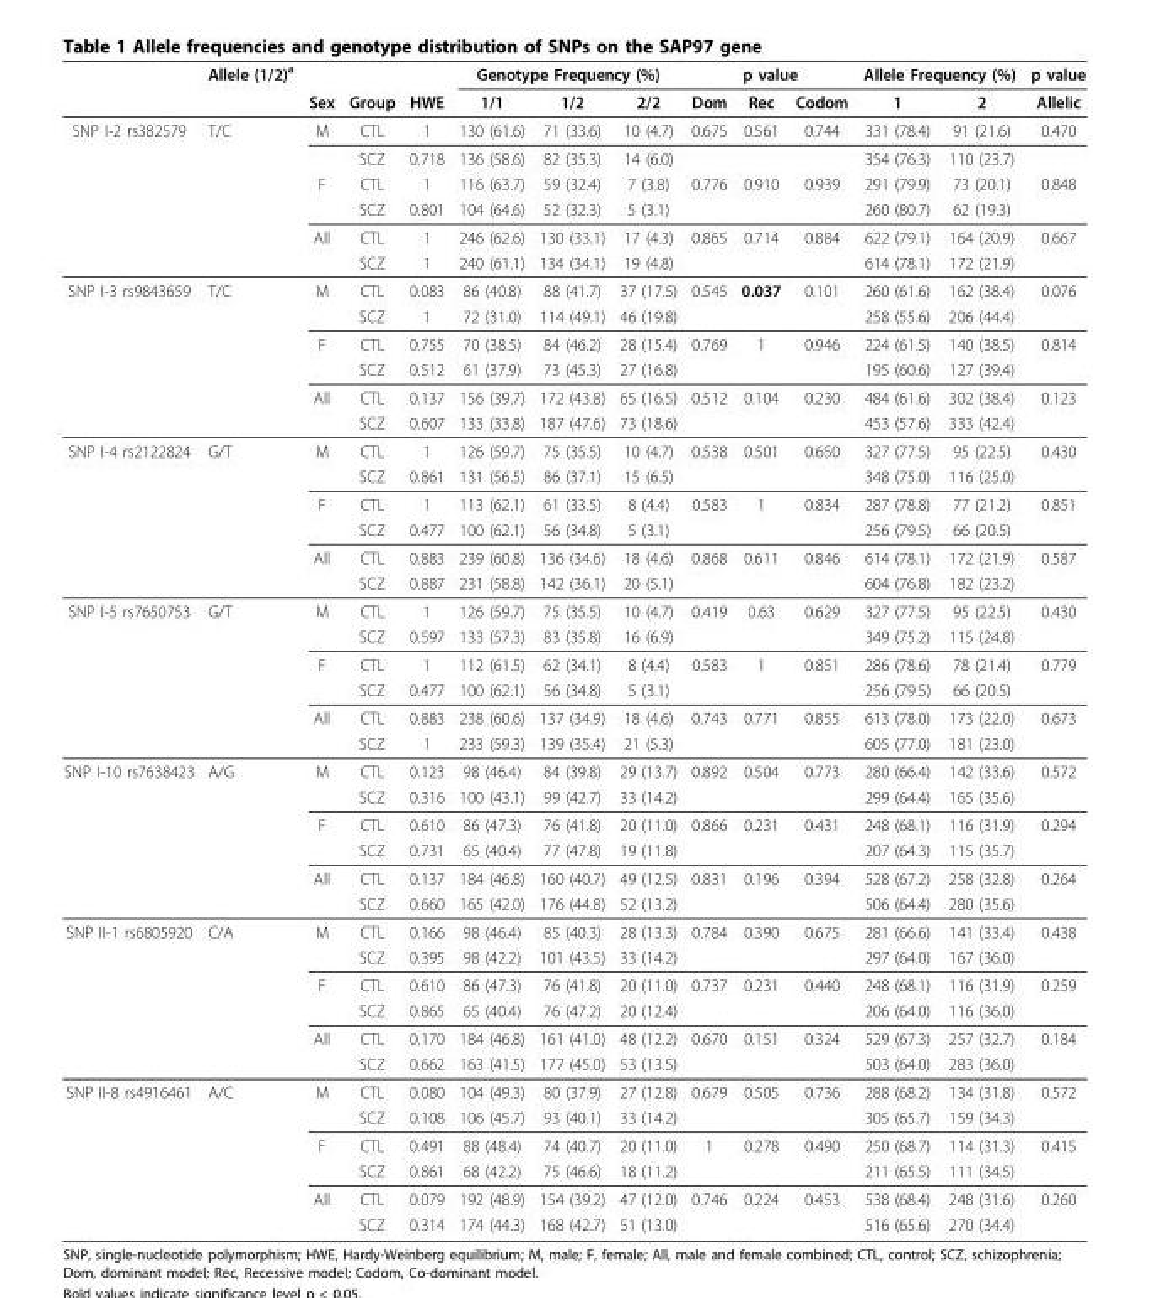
<table><thead><tr><td rowspan="2"></td><td rowspan="2">Allele (1/2)<sup>a</sup></td><td rowspan="2">Sex</td><td rowspan="2">Group</td><td rowspan="2">HWE</td><td colspan="3">Genotype Frequency (%)</td><td colspan="3">p value</td><td colspan="2">Allele Frequency (%)</td><td rowspan="2">p value Allelic</td></tr><tr><td>1/1</td><td>1/2</td><td>2/2</td><td>Dom</td><td>Rec</td><td>Codom</td><td>1</td><td>2</td></tr></thead><tbody><tr><td rowspan="6">SNP I-2 rs382579</td><td>T/C</td><td>M</td><td>CTL</td><td>1</td><td>130 (61.6)</td><td>71 (33.6)</td><td>10 (4.7)</td><td>0.675</td><td>0.561</td><td>0.744</td><td>331 (78.4)</td><td>91 (21.6)</td><td>0.470</td></tr><tr><td></td><td></td><td>SCZ</td><td>0.718</td><td>136 (58.6)</td><td>82 (35.3)</td><td>14 (6.0)</td><td></td><td></td><td></td><td>354 (76.3)</td><td>110 (23.7)</td><td></td></tr><tr><td></td><td>F</td><td>CTL</td><td>1</td><td>116 (63.7)</td><td>59 (32.4)</td><td>7 (3.8)</td><td>0.776</td><td>0.910</td><td>0.939</td><td>291 (79.9)</td><td>73 (20.1)</td><td>0.848</td></tr><tr><td></td><td></td><td>SCZ</td><td>0.801</td><td>104 (64.6)</td><td>52 (32.3)</td><td>5 (3.1)</td><td></td><td></td><td></td><td>260 (80.7)</td><td>62 (19.3)</td><td></td></tr><tr><td></td><td>All</td><td>CTL</td><td>1</td><td>246 (62.6)</td><td>130 (33.1)</td><td>17 (4.3)</td><td>0.865</td><td>0.714</td><td>0.884</td><td>622 (79.1)</td><td>164 (20.9)</td><td>0.667</td></tr><tr><td></td><td></td><td>SCZ</td><td>1</td><td>240 (61.1)</td><td>134 (34.1)</td><td>19 (4.8)</td><td></td><td></td><td></td><td>614 (78.1)</td><td>172 (21.9)</td><td></td></tr><tr><td rowspan="6">SNP I-3 rs9843659</td><td>T/C</td><td>M</td><td>CTL</td><td>0.083</td><td>86 (40.8)</td><td>88 (41.7)</td><td>37 (17.5)</td><td>0.545</td><td>0.037</td><td>0.101</td><td>260 (61.6)</td><td>162 (38.4)</td><td>0.076</td></tr><tr><td></td><td></td><td>SCZ</td><td>1</td><td>72 (31.0)</td><td>114 (49.1)</td><td>46 (19.8)</td><td></td><td></td><td></td><td>258 (55.6)</td><td>206 (44.4)</td><td></td></tr><tr><td></td><td>F</td><td>CTL</td><td>0.755</td><td>70 (38.5)</td><td>84 (46.2)</td><td>28 (15.4)</td><td>0.769</td><td>1</td><td>0.946</td><td>224 (61.5)</td><td>140 (38.5)</td><td>0.814</td></tr><tr><td></td><td></td><td>SCZ</td><td>0.512</td><td>61 (37.9)</td><td>73 (45.3)</td><td>27 (16.8)</td><td></td><td></td><td></td><td>195 (60.6)</td><td>127 (39.4)</td><td></td></tr><tr><td></td><td>All</td><td>CTL</td><td>0.137</td><td>156 (39.7)</td><td>172 (43.8)</td><td>65 (16.5)</td><td>0.512</td><td>0.104</td><td>0.230</td><td>484 (61.6)</td><td>302 (38.4)</td><td>0.123</td></tr><tr><td></td><td></td><td>SCZ</td><td>0.607</td><td>133 (33.8)</td><td>187 (47.6)</td><td>73 (18.6)</td><td></td><td></td><td></td><td>453 (57.6)</td><td>333 (42.4)</td><td></td></tr><tr><td rowspan="6">SNP I-4 rs2122824</td><td>G/T</td><td>M</td><td>CTL</td><td>1</td><td>126 (59.7)</td><td>75 (35.5)</td><td>10 (4.7)</td><td>0.538</td><td>0.501</td><td>0.650</td><td>327 (77.5)</td><td>95 (22.5)</td><td>0.430</td></tr><tr><td></td><td></td><td>SCZ</td><td>0.861</td><td>131 (56.5)</td><td>86 (37.1)</td><td>15 (6.5)</td><td></td><td></td><td></td><td>348 (75.0)</td><td>116 (25.0)</td><td></td></tr><tr><td></td><td>F</td><td>CTL</td><td>1</td><td>113 (62.1)</td><td>61 (33.5)</td><td>8 (4.4)</td><td>0.583</td><td>1</td><td>0.834</td><td>287 (78.8)</td><td>77 (21.2)</td><td>0.851</td></tr><tr><td></td><td></td><td>SCZ</td><td>0.477</td><td>100 (62.1)</td><td>56 (34.8)</td><td>5 (3.1)</td><td></td><td></td><td></td><td>256 (79.5)</td><td>66 (20.5)</td><td></td></tr><tr><td></td><td>All</td><td>CTL</td><td>0.883</td><td>239 (60.8)</td><td>136 (34.6)</td><td>18 (4.6)</td><td>0.868</td><td>0.611</td><td>0.846</td><td>614 (78.1)</td><td>172 (21.9)</td><td>0.587</td></tr><tr><td></td><td></td><td>SCZ</td><td>0.887</td><td>231 (58.8)</td><td>142 (36.1)</td><td>20 (5.1)</td><td></td><td></td><td></td><td>604 (76.8)</td><td>182 (23.2)</td><td></td></tr><tr><td rowspan="6">SNP I-5 rs7650753</td><td>G/T</td><td>M</td><td>CTL</td><td>1</td><td>126 (59.7)</td><td>75 (35.5)</td><td>10 (4.7)</td><td>0.419</td><td>0.63</td><td>0.629</td><td>327 (77.5)</td><td>95 (22.5)</td><td>0.430</td></tr><tr><td></td><td></td><td>SCZ</td><td>0.597</td><td>133 (57.3)</td><td>83 (35.8)</td><td>16 (6.9)</td><td></td><td></td><td></td><td>349 (75.2)</td><td>115 (24.8)</td><td></td></tr><tr><td></td><td>F</td><td>CTL</td><td>1</td><td>112 (61.5)</td><td>62 (34.1)</td><td>8 (4.4)</td><td>0.583</td><td>1</td><td>0.851</td><td>286 (78.6)</td><td>78 (21.4)</td><td>0.779</td></tr><tr><td></td><td></td><td>SCZ</td><td>0.477</td><td>100 (62.1)</td><td>56 (34.8)</td><td>5 (3.1)</td><td></td><td></td><td></td><td>256 (79.5)</td><td>66 (20.5)</td><td></td></tr><tr><td></td><td>All</td><td>CTL</td><td>0.883</td><td>238 (60.6)</td><td>137 (34.9)</td><td>18 (4.6)</td><td>0.743</td><td>0.771</td><td>0.855</td><td>613 (78.0)</td><td>173 (22.0)</td><td>0.673</td></tr><tr><td></td><td></td><td>SCZ</td><td>1</td><td>233 (59.3)</td><td>139 (35.4)</td><td>21 (5.3)</td><td></td><td></td><td></td><td>605 (77.0)</td><td>181 (23.0)</td><td></td></tr><tr><td rowspan="6">SNP I-10 rs7638423</td><td>A/G</td><td>M</td><td>CTL</td><td>0.123</td><td>98 (46.4)</td><td>84 (39.8)</td><td>29 (13.7)</td><td>0.892</td><td>0.504</td><td>0.773</td><td>280 (66.4)</td><td>142 (33.6)</td><td>0.572</td></tr><tr><td></td><td></td><td>SCZ</td><td>0.316</td><td>100 (43.1)</td><td>99 (42.7)</td><td>33 (14.2)</td><td></td><td></td><td></td><td>299 (64.4)</td><td>165 (35.6)</td><td></td></tr><tr><td></td><td>F</td><td>CTL</td><td>0.610</td><td>86 (47.3)</td><td>76 (41.8)</td><td>20 (11.0)</td><td>0.866</td><td>0.231</td><td>0.431</td><td>248 (68.1)</td><td>116 (31.9)</td><td>0.294</td></tr><tr><td></td><td></td><td>SCZ</td><td>0.731</td><td>65 (40.4)</td><td>77 (47.8)</td><td>19 (11.8)</td><td></td><td></td><td></td><td>207 (64.3)</td><td>115 (35.7)</td><td></td></tr><tr><td></td><td>All</td><td>CTL</td><td>0.137</td><td>184 (46.8)</td><td>160 (40.7)</td><td>49 (12.5)</td><td>0.831</td><td>0.196</td><td>0.394</td><td>528 (67.2)</td><td>258 (32.8)</td><td>0.264</td></tr><tr><td></td><td></td><td>SCZ</td><td>0.660</td><td>165 (42.0)</td><td>176 (44.8)</td><td>52 (13.2)</td><td></td><td></td><td></td><td>506 (64.4)</td><td>280 (35.6)</td><td></td></tr><tr><td rowspan="6">SNP II-1 rs6805920</td><td>C/A</td><td>M</td><td>CTL</td><td>0.166</td><td>98 (46.4)</td><td>85 (40.3)</td><td>28 (13.3)</td><td>0.784</td><td>0.390</td><td>0.675</td><td>281 (66.6)</td><td>141 (33.4)</td><td>0.438</td></tr><tr><td></td><td></td><td>SCZ</td><td>0.395</td><td>98 (42.2)</td><td>101 (43.5)</td><td>33 (14.2)</td><td></td><td></td><td></td><td>297 (64.0)</td><td>167 (36.0)</td><td></td></tr><tr><td></td><td>F</td><td>CTL</td><td>0.610</td><td>86 (47.3)</td><td>76 (41.8)</td><td>20 (11.0)</td><td>0.737</td><td>0.231</td><td>0.440</td><td>248 (68.1)</td><td>116 (31.9)</td><td>0.259</td></tr><tr><td></td><td></td><td>SCZ</td><td>0.865</td><td>65 (40.4)</td><td>76 (47.2)</td><td>20 (12.4)</td><td></td><td></td><td></td><td>206 (64.0)</td><td>116 (36.0)</td><td></td></tr><tr><td></td><td>All</td><td>CTL</td><td>0.170</td><td>184 (46.8)</td><td>161 (41.0)</td><td>48 (12.2)</td><td>0.670</td><td>0.151</td><td>0.324</td><td>529 (67.3)</td><td>257 (32.7)</td><td>0.184</td></tr><tr><td></td><td></td><td>SCZ</td><td>0.662</td><td>163 (41.5)</td><td>177 (45.0)</td><td>53 (13.5)</td><td></td><td></td><td></td><td>503 (64.0)</td><td>283 (36.0)</td><td></td></tr><tr><td rowspan="6">SNP II-8 rs4916461</td><td>A/C</td><td>M</td><td>CTL</td><td>0.080</td><td>104 (49.3)</td><td>80 (37.9)</td><td>27 (12.8)</td><td>0.679</td><td>0.505</td><td>0.736</td><td>288 (68.2)</td><td>134 (31.8)</td><td>0.572</td></tr><tr><td></td><td></td><td>SCZ</td><td>0.108</td><td>106 (45.7)</td><td>93 (40.1)</td><td>33 (14.2)</td><td></td><td></td><td></td><td>305 (65.7)</td><td>159 (34.3)</td><td></td></tr><tr><td></td><td>F</td><td>CTL</td><td>0.491</td><td>88 (48.4)</td><td>74 (40.7)</td><td>20 (11.0)</td><td>1</td><td>0.278</td><td>0.490</td><td>250 (68.7)</td><td>114 (31.3)</td><td>0.415</td></tr><tr><td></td><td></td><td>SCZ</td><td>0.861</td><td>68 (42.2)</td><td>75 (46.6)</td><td>18 (11.2)</td><td></td><td></td><td></td><td>211 (65.5)</td><td>111 (34.5)</td><td></td></tr><tr><td></td><td>All</td><td>CTL</td><td>0.079</td><td>192 (48.9)</td><td>154 (39.2)</td><td>47 (12.0)</td><td>0.746</td><td>0.224</td><td>0.453</td><td>538 (68.4)</td><td>248 (31.6)</td><td>0.260</td></tr><tr><td></td><td></td><td>SCZ</td><td>0.314</td><td>174 (44.3)</td><td>168 (42.7)</td><td>51 (13.0)</td><td></td><td></td><td></td><td>516 (65.6)</td><td>270 (34.4)</td><td></td></tr></tbody></table>